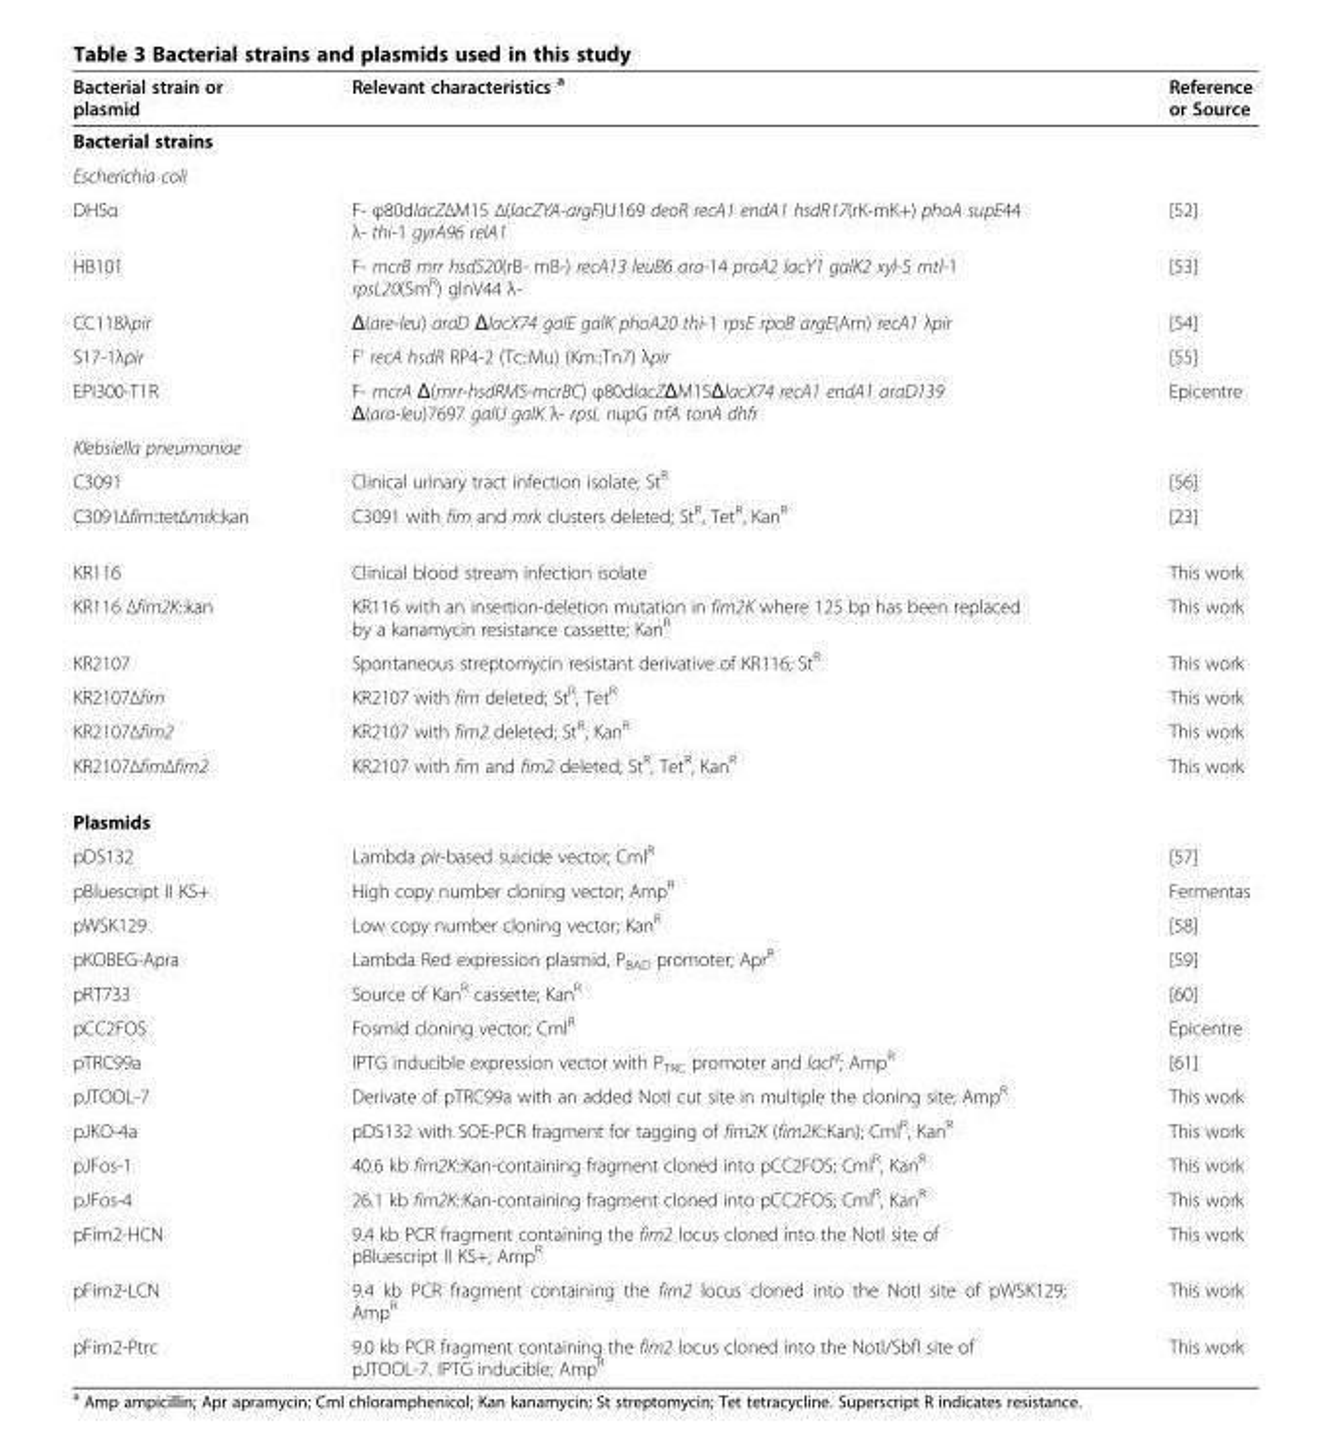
<table><thead><tr><td>Bacterial strain or plasmid</td><td>Relevant characteristics <sup>a</sup></td><td>Reference or Source</td></tr></thead><tbody><tr><td colspan="3">Bacterial strains</td></tr><tr><td colspan="3">Escherichia coli</td></tr><tr><td>DH5α</td><td>F- φ80dlacZΔM15 Δ(lacZYA-argF)U169 deoR recA1 endA1 hsdR17(rK-mK+) phoA supE44 λ- thi-1 gyrA96 relA1</td><td>[52]</td></tr><tr><td>HB101</td><td>F- mcrB mrr hsdS20(rB- mB-) recA13 leuB6 ara-14 proA2 lacY1 galK2 xyl-5 mtl-1 rpsL20(Sm<sup>R</sup>) glnV44 λ-</td><td>[53]</td></tr><tr><td>CC118λpir</td><td>Δ(are-leu) araD ΔlacX74 galE galK phoA20 thi-1 rpsE rpoB argE(Am) recA1 λpir</td><td>[54]</td></tr><tr><td>S17-1λpir</td><td>F’ recA hsdR RP4-2 (Tc::Mu) (Km::Tn7) λpir</td><td>[55]</td></tr><tr><td>EPI300-T1R</td><td>F- mcrA Δ(mrr-hsdRMS-mcrBC) φ80dlacZΔM15ΔlacX74 recA1 endA1 araD139 Δ(ara-leu)7697 galU galK λ- rpsL nupG trfA tonA dhfr</td><td>Epicentre</td></tr><tr><td colspan="3">Klebsiella pneumoniae</td></tr><tr><td>C3091</td><td>Clinical urinary tract infection isolate; St<sup>R</sup></td><td>[56]</td></tr><tr><td>C3091Δfim::tetΔmrk::kan</td><td>C3091 with fim and mrk clusters deleted; St<sup>R</sup>, Tet<sup>R</sup>, Kan<sup>R</sup></td><td>[23]</td></tr><tr><td>KR116</td><td>Clinical blood stream infection isolate</td><td>This work</td></tr><tr><td>KR116 Δfim2K::kan</td><td>KR116 with an insertion-deletion mutation in fim2K where 125 bp has been replaced by a kanamycin resistance cassette; Kan<sup>R</sup></td><td>This work</td></tr><tr><td>KR2107</td><td>Spontaneous streptomycin resistant derivative of KR116; St<sup>R</sup></td><td>This work</td></tr><tr><td>KR2107Δfim</td><td>KR2107 with fim deleted; St<sup>R</sup>, Tet<sup>R</sup></td><td>This work</td></tr><tr><td>KR2107Δfim2</td><td>KR2107 with fim2 deleted; St<sup>R</sup>, Kan<sup>R</sup></td><td>This work</td></tr><tr><td>KR2107ΔfimΔfim2</td><td>KR2107 with fim and fim2 deleted; St<sup>R</sup>, Tet<sup>R</sup>, Kan<sup>R</sup></td><td>This work</td></tr><tr><td colspan="3">Plasmids</td></tr><tr><td>pDS132</td><td>Lambda pir-based suicide vector; Cml<sup>R</sup></td><td>[57]</td></tr><tr><td>pBluescript II KS+</td><td>High copy number cloning vector; Amp<sup>R</sup></td><td>Fermentas</td></tr><tr><td>pWSK129</td><td>Low copy number cloning vector; Kan<sup>R</sup></td><td>[58]</td></tr><tr><td>pKOBEG-Apra</td><td>Lambda Red expression plasmid, P<sub>BAD</sub> promoter; Apr<sup>R</sup></td><td>[59]</td></tr><tr><td>pRT733</td><td>Source of Kan<sup>R</sup> cassette; Kan<sup>R</sup></td><td>[60]</td></tr><tr><td>pCC2FOS</td><td>Fosmid cloning vector; Cml<sup>R</sup></td><td>Epicentre</td></tr><tr><td>pTRC99a</td><td>IPTG inducible expression vector with P<sub>TRC</sub> promoter and lacI<sup>q</sup>; Amp<sup>R</sup></td><td>[61]</td></tr><tr><td>pJTOOL-7</td><td>Derivate of pTRC99a with an added NotI cut site in multiple the cloning site; Amp<sup>R</sup></td><td>This work</td></tr><tr><td>pJKO-4a</td><td>pDS132 with SOE-PCR fragment for tagging of fim2K (fim2K::Kan); Cml<sup>R</sup>, Kan<sup>R</sup></td><td>This work</td></tr><tr><td>pJFos-1</td><td>40.6 kb fim2K::Kan-containing fragment cloned into pCC2FOS; Cml<sup>R</sup>, Kan<sup>R</sup></td><td>This work</td></tr><tr><td>pJFos-4</td><td>26.1 kb fim2K::Kan-containing fragment cloned into pCC2FOS; Cml<sup>R</sup>, Kan<sup>R</sup></td><td>This work</td></tr><tr><td>pFim2-HCN</td><td>9.4 kb PCR fragment containing the fim2 locus cloned into the NotI site of pBluescript II KS+; Amp<sup>R</sup></td><td>This work</td></tr><tr><td>pFim2-LCN</td><td>9.4 kb PCR fragment containing the fim2 locus cloned into the NotI site of pWSK129; Amp<sup>R</sup></td><td>This work</td></tr><tr><td>pFim2-Ptrc</td><td>9.0 kb PCR fragment containing the fim2 locus cloned into the NotI/SbfI site of pJTOOL-7. IPTG inducible; Amp<sup>R</sup></td><td>This work</td></tr></tbody></table>